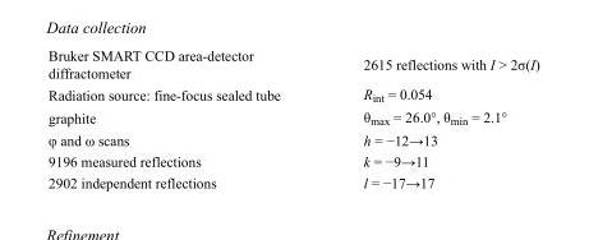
<table><tbody><tr><td>Bruker SMART CCD area-detector diffractometer</td><td>2615 reflections with I &gt; 2σ(I)</td></tr><tr><td>Radiation source: fine-focus sealed tube</td><td>R<sub>int</sub> = 0.054</td></tr><tr><td>graphite</td><td>θ<sub>max</sub> = 26.0°, θ<sub>min</sub> = 2.1°</td></tr><tr><td>φ and ω scans</td><td>h = −12→13</td></tr><tr><td>9196 measured reflections</td><td>k = −9→11</td></tr><tr><td>2902 independent reflections</td><td>l = −17→17</td></tr></tbody></table>